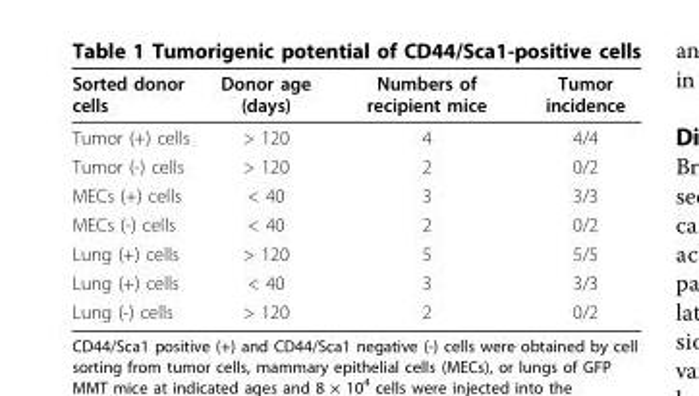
<table><thead><tr><td>Sorted donor cells</td><td>Donor age (days)</td><td>Numbers of recipient mice</td><td>Tumor incidence</td></tr></thead><tbody><tr><td>Tumor (+) cells</td><td>&gt; 120</td><td>4</td><td>4/4</td></tr><tr><td>Tumor (-) cells</td><td>&gt; 120</td><td>2</td><td>0/2</td></tr><tr><td>MECs (+) cells</td><td>&lt; 40</td><td>3</td><td>3/3</td></tr><tr><td>MECs (-) cells</td><td>&lt; 40</td><td>2</td><td>0/2</td></tr><tr><td>Lung (+) cells</td><td>&gt; 120</td><td>5</td><td>5/5</td></tr><tr><td>Lung (+) cells</td><td>&lt; 40</td><td>3</td><td>3/3</td></tr><tr><td>Lung (-) cells</td><td>&gt; 120</td><td>2</td><td>0/2</td></tr></tbody></table>